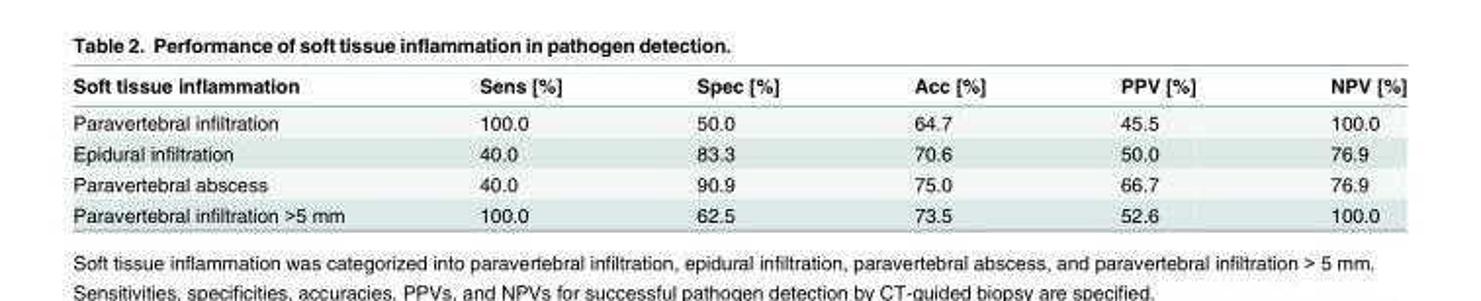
<table><thead><tr><td>Soft tissue inflammation</td><td>Sens [%]</td><td>Spec [%]</td><td>Acc [%]</td><td>PPV [%]</td><td>NPV [%]</td></tr></thead><tbody><tr><td>Paravertebral infiltration</td><td>100.0</td><td>50.0</td><td>64.7</td><td>45.5</td><td>100.0</td></tr><tr><td>Epidural infiltration</td><td>40.0</td><td>83.3</td><td>70.6</td><td>50.0</td><td>76.9</td></tr><tr><td>Paravertebral abscess</td><td>40.0</td><td>90.9</td><td>75.0</td><td>66.7</td><td>76.9</td></tr><tr><td>Paravertebral infiltration &gt;5 mm</td><td>100.0</td><td>62.5</td><td>73.5</td><td>52.6</td><td>100.0</td></tr></tbody></table>